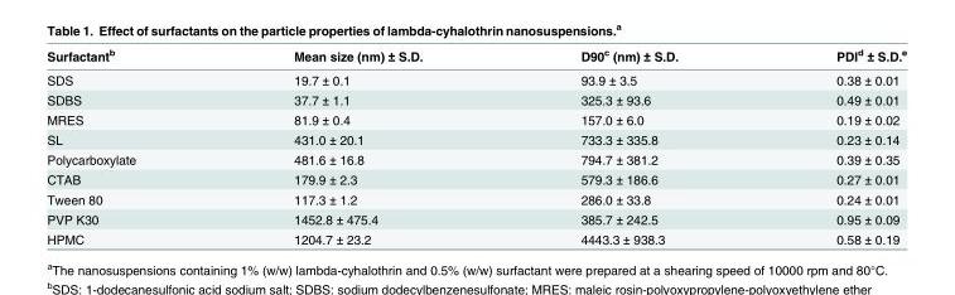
<table><thead><tr><td>Surfactant<sup>b</sup></td><td>Mean size (nm) ± S.D.</td><td>D90<sup>c</sup> (nm) ± S.D.</td><td>PDI<sup>d</sup> ± S.D.<sup>e</sup></td></tr></thead><tbody><tr><td>SDS</td><td>19.7 ± 0.1</td><td>93.9 ± 3.5</td><td>0.38 ± 0.01</td></tr><tr><td>SDBS</td><td>37.7 ± 1.1</td><td>325.3 ± 93.6</td><td>0.49 ± 0.01</td></tr><tr><td>MRES</td><td>81.9 ± 0.4</td><td>157.0 ± 6.0</td><td>0.19 ± 0.02</td></tr><tr><td>SL</td><td>431.0 ± 20.1</td><td>733.3 ± 335.8</td><td>0.23 ± 0.14</td></tr><tr><td>Polycarboxylate</td><td>481.6 ± 16.8</td><td>794.7 ± 381.2</td><td>0.39 ± 0.35</td></tr><tr><td>CTAB</td><td>179.9 ± 2.3</td><td>579.3 ± 186.6</td><td>0.27 ± 0.01</td></tr><tr><td>Tween 80</td><td>117.3 ± 1.2</td><td>286.0 ± 33.8</td><td>0.24 ± 0.01</td></tr><tr><td>PVP K30</td><td>1452.8 ± 475.4</td><td>385.7 ± 242.5</td><td>0.95 ± 0.09</td></tr><tr><td>HPMC</td><td>1204.7 ± 23.2</td><td>4443.3 ± 938.3</td><td>0.58 ± 0.19</td></tr></tbody></table>